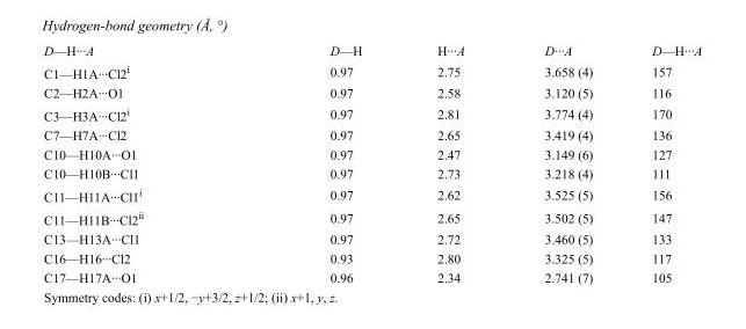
<table><tbody><tr><td>D—H···A</td><td>D—H</td><td>H···A</td><td>D···A</td><td>D—H···A</td></tr><tr><td>C1—H1A···Cl2<sup>i</sup></td><td>0.97</td><td>2.75</td><td>3.658 (4)</td><td>157</td></tr><tr><td>C2—H2A···O1</td><td>0.97</td><td>2.58</td><td>3.120 (5)</td><td>116</td></tr><tr><td>C3—H3A···Cl2<sup>i</sup></td><td>0.97</td><td>2.81</td><td>3.774 (4)</td><td>170</td></tr><tr><td>C7—H7A···Cl2</td><td>0.97</td><td>2.65</td><td>3.419 (4)</td><td>136</td></tr><tr><td>C10—H10A···O1</td><td>0.97</td><td>2.47</td><td>3.149 (6)</td><td>127</td></tr><tr><td>C10—H10B···Cl1</td><td>0.97</td><td>2.73</td><td>3.218 (4)</td><td>111</td></tr><tr><td>C11—H11A···Cl1<sup>i</sup></td><td>0.97</td><td>2.62</td><td>3.525 (5)</td><td>156</td></tr><tr><td>C11—H11B···Cl2<sup>ii</sup></td><td>0.97</td><td>2.65</td><td>3.502 (5)</td><td>147</td></tr><tr><td>C13—H13A···Cl1</td><td>0.97</td><td>2.72</td><td>3.460 (5)</td><td>133</td></tr><tr><td>C16—H16···Cl2</td><td>0.93</td><td>2.80</td><td>3.325 (5)</td><td>117</td></tr><tr><td>C17—H17A···O1</td><td>0.96</td><td>2.34</td><td>2.741 (7)</td><td>105</td></tr></tbody></table>